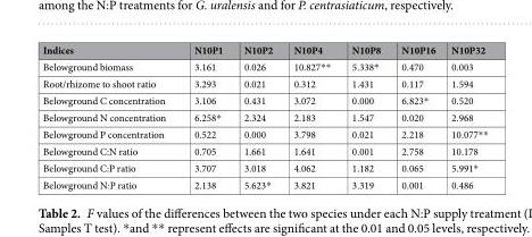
<table><thead><tr><td>Indices</td><td>N10P1</td><td>N10P2</td><td>N10P4</td><td>N10P8</td><td>N10P16</td><td>N10P32</td></tr></thead><tbody><tr><td>Belowground biomass</td><td>3.161</td><td>0.026</td><td>10.827**</td><td>5.338*</td><td>0.470</td><td>0.003</td></tr><tr><td>Root/rhizome to shoot ratio</td><td>3.293</td><td>0.021</td><td>0.312</td><td>1.431</td><td>0.117</td><td>1.594</td></tr><tr><td>Belowground C concentration</td><td>3.106</td><td>0.431</td><td>3.072</td><td>0.000</td><td>6.823*</td><td>0.520</td></tr><tr><td>Belowground N concentration</td><td>6.258*</td><td>2.324</td><td>2.183</td><td>1.547</td><td>0.020</td><td>2.968</td></tr><tr><td>Belowground P concentration</td><td>0.522</td><td>0.000</td><td>3.798</td><td>0.021</td><td>2.218</td><td>10.077**</td></tr><tr><td>Belowground C:N ratio</td><td>0.705</td><td>1.661</td><td>1.641</td><td>0.001</td><td>2.758</td><td>10.178</td></tr><tr><td>Belowground C:P ratio</td><td>3.707</td><td>3.018</td><td>4.062</td><td>1.182</td><td>0.065</td><td>5.991*</td></tr><tr><td>Belowground N:P ratio</td><td>2.138</td><td>5.623*</td><td>3.821</td><td>3.319</td><td>0.001</td><td>0.486</td></tr></tbody></table>